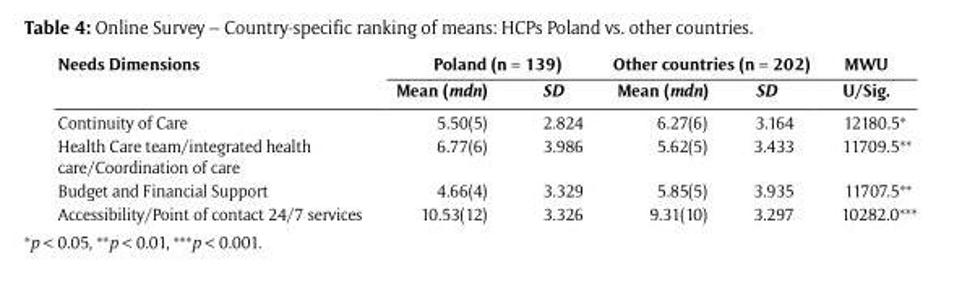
<table><thead><tr><td rowspan="2">Needs Dimensions</td><td colspan="2">Poland (n = 139)</td><td colspan="2">Other countries (n = 202)</td><td rowspan="2">MWU U/Sig.</td></tr><tr><td>Mean (mdn)</td><td>SD</td><td>Mean (mdn)</td><td>SD</td></tr></thead><tbody><tr><td>Continuity of Care</td><td>5.50(5)</td><td>2.824</td><td>6.27(6)</td><td>3.164</td><td>12180.5*</td></tr><tr><td>Health Care team/integrated health care/Coordination of care</td><td>6.77(6)</td><td>3.986</td><td>5.62(5)</td><td>3.433</td><td>11709.5**</td></tr><tr><td>Budget and Financial Support</td><td>4.66(4)</td><td>3.329</td><td>5.85(5)</td><td>3.935</td><td>11707.5**</td></tr><tr><td>Accessibility/Point of contact 24/7 services</td><td>10.53(12)</td><td>3.326</td><td>9.31(10)</td><td>3.297</td><td>10282.0***</td></tr></tbody></table>